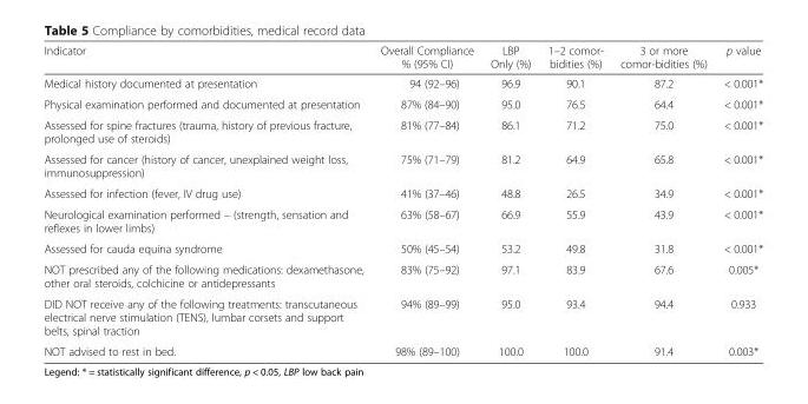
<table><thead><tr><td>Indicator</td><td>Overall Compliance % (95% CI)</td><td>LBP Only (%)</td><td>1–2 comor- bidities (%)</td><td>3 or more comor-bidities (%)</td><td>p value</td></tr></thead><tbody><tr><td>Medical history documented at presentation</td><td>94 (92–96)</td><td>96.9</td><td>90.1</td><td>87.2</td><td>&lt; 0.001*</td></tr><tr><td>Physical examination performed and documented at presentation</td><td>87% (84–90)</td><td>95.0</td><td>76.5</td><td>64.4</td><td>&lt; 0.001*</td></tr><tr><td>Assessed for spine fractures (trauma, history of previous fracture, prolonged use of steroids)</td><td>81% (77–84)</td><td>86.1</td><td>71.2</td><td>75.0</td><td>&lt; 0.001*</td></tr><tr><td>Assessed for cancer (history of cancer, unexplained weight loss, immunosuppression)</td><td>75% (71–79)</td><td>81.2</td><td>64.9</td><td>65.8</td><td>&lt; 0.001*</td></tr><tr><td>Assessed for infection (fever, IV drug use)</td><td>41% (37–46)</td><td>48.8</td><td>26.5</td><td>34.9</td><td>&lt; 0.001*</td></tr><tr><td>Neurological examination performed – (strength, sensation and reflexes in lower limbs)</td><td>63% (58–67)</td><td>66.9</td><td>55.9</td><td>43.9</td><td>&lt; 0.001*</td></tr><tr><td>Assessed for cauda equina syndrome</td><td>50% (45–54)</td><td>53.2</td><td>49.8</td><td>31.8</td><td>&lt; 0.001*</td></tr><tr><td>NOT prescribed any of the following medications: dexamethasone, other oral steroids, colchicine or antidepressants</td><td>83% (75–92)</td><td>97.1</td><td>83.9</td><td>67.6</td><td>0.005*</td></tr><tr><td>DID NOT receive any of the following treatments: transcutaneous electrical nerve stimulation (TENS), lumbar corsets and support belts, spinal traction</td><td>94% (89–99)</td><td>95.0</td><td>93.4</td><td>94.4</td><td>0.933</td></tr><tr><td>NOT advised to rest in bed.</td><td>98% (89–100)</td><td>100.0</td><td>100.0</td><td>91.4</td><td>0.003*</td></tr></tbody></table>